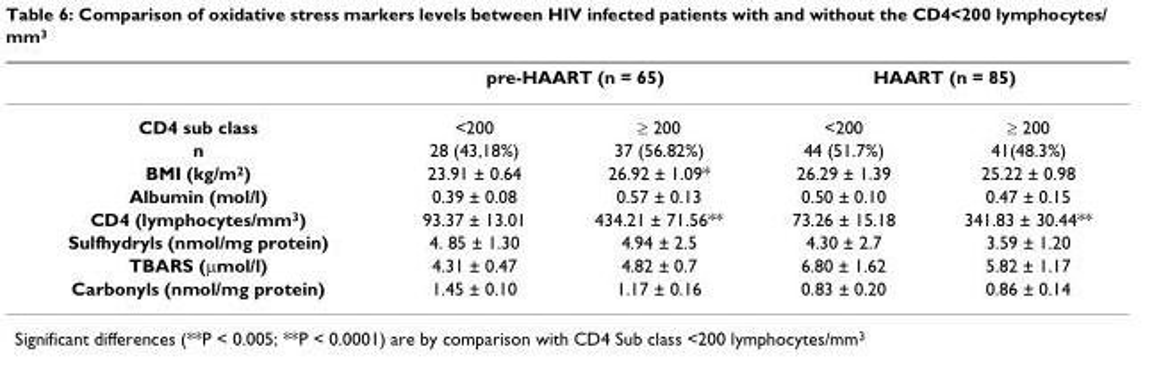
<table><thead><tr><td rowspan="2">CD4 sub class</td><td colspan="2">pre-HAART (n = 65)</td><td colspan="2">HAART (n = 85)</td></tr><tr><td>&lt;200</td><td>≥ 200</td><td>&lt;200</td><td>≥ 200</td></tr></thead><tbody><tr><td>n</td><td>28 (43,18%)</td><td>37 (56.82%)</td><td>44 (51.7%)</td><td>41(48.3%)</td></tr><tr><td>BMI (kg/m<sup>2</sup>)</td><td>23.91 ± 0.64</td><td>26.92 ± 1.09*</td><td>26.29 ± 1.39</td><td>25.22 ± 0.98</td></tr><tr><td>Albumin (mol/l)</td><td>0.39 ± 0.08</td><td>0.57 ± 0.13</td><td>0.50 ± 0.10</td><td>0.47 ± 0.15</td></tr><tr><td>CD4 (lymphocytes/mm<sup>3</sup>)</td><td>93.37 ± 13.01</td><td>434.21 ± 71.56**</td><td>73.26 ± 15.18</td><td>341.83 ± 30.44**</td></tr><tr><td>Sulfhydryls (nmol/mg protein)</td><td>4. 85 ± 1.30</td><td>4.94 ± 2.5</td><td>4.30 ± 2.7</td><td>3.59 ± 1.20</td></tr><tr><td>TBARS (μmol/l)</td><td>4.31 ± 0.47</td><td>4.82 ± 0.7</td><td>6.80 ± 1.62</td><td>5.82 ± 1.17</td></tr><tr><td>Carbonyls (nmol/mg protein)</td><td>1.45 ± 0.10</td><td>1.17 ± 0.16</td><td>0.83 ± 0.20</td><td>0.86 ± 0.14</td></tr></tbody></table>